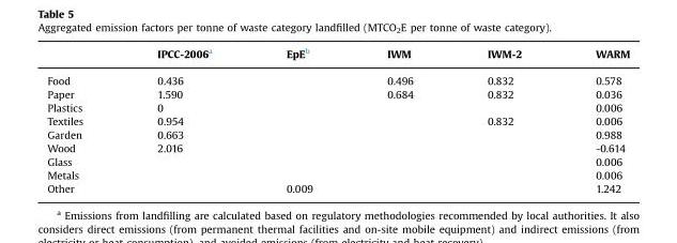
<table><thead><tr><td></td><td>IPCC-2006<sup>a</sup></td><td>EpE<sup>b</sup></td><td>IWM</td><td>IWM-2</td><td>WARM</td></tr></thead><tbody><tr><td>Food</td><td>0.436</td><td></td><td>0.496</td><td>0.832</td><td>0.578</td></tr><tr><td>Paper</td><td>1.590</td><td></td><td>0.684</td><td>0.832</td><td>0.036</td></tr><tr><td>Plastics</td><td>0</td><td></td><td></td><td></td><td>0.006</td></tr><tr><td>Textiles</td><td>0.954</td><td></td><td></td><td>0.832</td><td>0.006</td></tr><tr><td>Garden</td><td>0.663</td><td></td><td></td><td></td><td>0.988</td></tr><tr><td>Wood</td><td>2.016</td><td></td><td></td><td></td><td>-0.614</td></tr><tr><td>Glass</td><td></td><td></td><td></td><td></td><td>0.006</td></tr><tr><td>Metals</td><td></td><td></td><td></td><td></td><td>0.006</td></tr><tr><td>Other</td><td></td><td>0.009</td><td></td><td></td><td>1.242</td></tr></tbody></table>